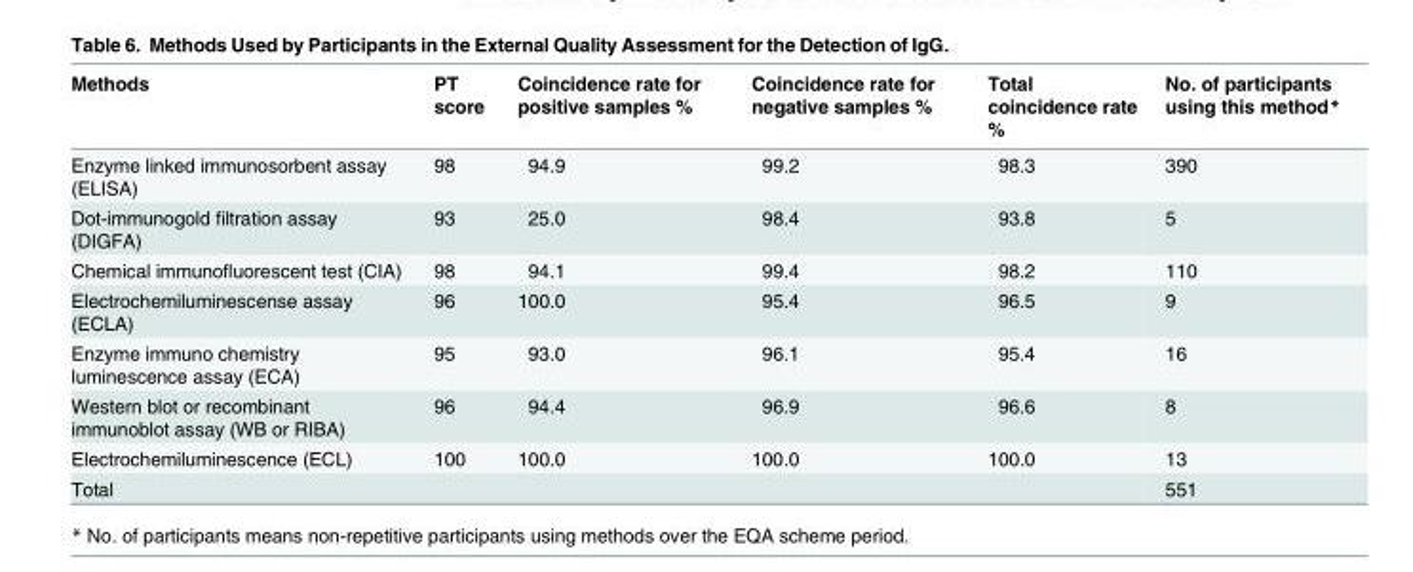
<table><thead><tr><td>Methods</td><td>PT score</td><td>Coincidence rate for positive samples %</td><td>Coincidence rate for negative samples %</td><td>Total coincidence rate %</td><td>No. of participants using this method*</td></tr></thead><tbody><tr><td>Enzyme linked immunosorbent assay (ELISA)</td><td>98</td><td>94.9</td><td>99.2</td><td>98.3</td><td>390</td></tr><tr><td>Dot-immunogold filtration assay (DIGFA)</td><td>93</td><td>25.0</td><td>98.4</td><td>93.8</td><td>5</td></tr><tr><td>Chemical immunofluorescent test (CIA)</td><td>98</td><td>94.1</td><td>99.4</td><td>98.2</td><td>110</td></tr><tr><td>Electrochemiluminescense assay (ECLA)</td><td>96</td><td>100.0</td><td>95.4</td><td>96.5</td><td>9</td></tr><tr><td>Enzyme immuno chemistry luminescence assay (ECA)</td><td>95</td><td>93.0</td><td>96.1</td><td>95.4</td><td>16</td></tr><tr><td>Western blot or recombinant immunoblot assay (WB or RIBA)</td><td>96</td><td>94.4</td><td>96.9</td><td>96.6</td><td>8</td></tr><tr><td>Electrochemiluminescence (ECL)</td><td>100</td><td>100.0</td><td>100.0</td><td>100.0</td><td>13</td></tr><tr><td>Total</td><td></td><td></td><td></td><td></td><td>551</td></tr></tbody></table>